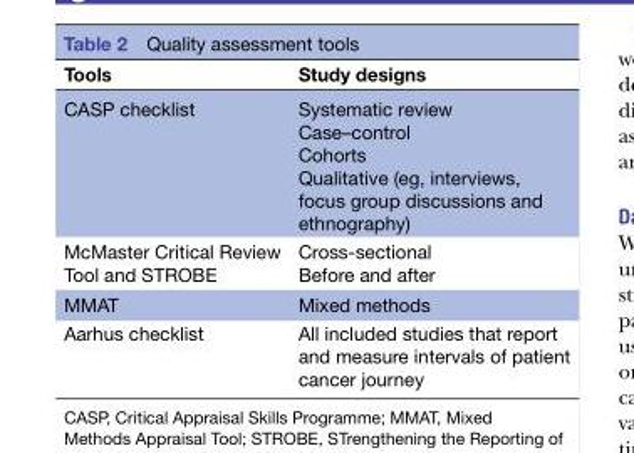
<table><thead><tr><td>Tools</td><td>Study designs</td></tr></thead><tbody><tr><td>CASP checklist</td><td>Systematic review Case–control Cohorts Qualitative (eg, interviews, focus group discussions and ethnography)</td></tr><tr><td>McMaster Critical Review Tool and STROBE</td><td>Cross-sectional Before and after</td></tr><tr><td>MMAT</td><td>Mixed methods</td></tr><tr><td>Aarhus checklist</td><td>All included studies that report and measure intervals of patient cancer journey</td></tr></tbody></table>